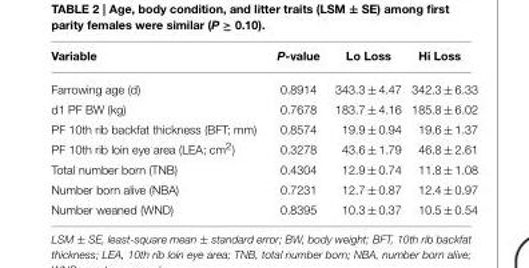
<table><thead><tr><td>Variable</td><td>P-value</td><td>Lo Loss</td><td>Hi Loss</td></tr></thead><tbody><tr><td>Farrowing age (d)</td><td>0.8914</td><td>343.3 ± 4.47</td><td>342.3 ± 6.33</td></tr><tr><td>d1 PF BW (kg)</td><td>0.7678</td><td>183.7 ± 4.16</td><td>185.8 ± 6.02</td></tr><tr><td>PF 10th rib backfat thickness (BFT; mm)</td><td>0.8574</td><td>19.9 ± 0.94</td><td>19.6 ± 1.37</td></tr><tr><td>PF 10th rib loin eye area (LEA; cm<sup>2</sup>)</td><td>0.3278</td><td>43.6 ± 1.79</td><td>46.8 ± 2.61</td></tr><tr><td>Total number born (TNB)</td><td>0.4304</td><td>12.9 ± 0.74</td><td>11.8 ± 1.08</td></tr><tr><td>Number born alive (NBA)</td><td>0.7231</td><td>12.7 ± 0.87</td><td>12.4 ± 0.97</td></tr><tr><td>Number weaned (WND)</td><td>0.8395</td><td>10.3 ± 0.37</td><td>10.5 ± 0.54</td></tr></tbody></table>